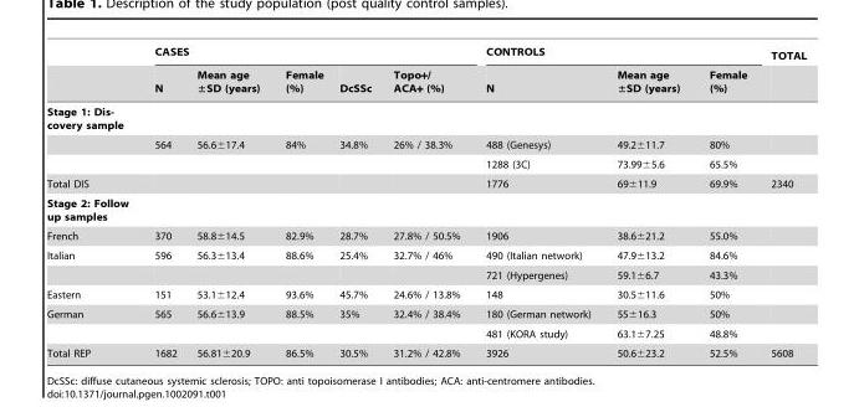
<table><thead><tr><td rowspan="2"></td><td colspan="5">CASES</td><td colspan="3">CONTROLS</td><td rowspan="2">TOTAL</td></tr><tr><td>N</td><td>Mean age ±SD (years)</td><td>Female (%)</td><td>DcSSc</td><td>Topo+/ ACA+ (%)</td><td>N</td><td>Mean age ±SD (years)</td><td>Female (%)</td></tr></thead><tbody><tr><td colspan="10">Stage 1: Dis- covery sample</td></tr><tr><td></td><td>564</td><td>56.6±17.4</td><td>84%</td><td>34.8%</td><td>26% / 38.3%</td><td>488 (Genesys)</td><td>49.2±11.7</td><td>80%</td><td></td></tr><tr><td></td><td></td><td></td><td></td><td></td><td></td><td>1288 (3C)</td><td>73.99±5.6</td><td>65.5%</td><td></td></tr><tr><td>Total DIS</td><td></td><td></td><td></td><td></td><td></td><td>1776</td><td>69±11.9</td><td>69.9%</td><td>2340</td></tr><tr><td colspan="10">Stage 2: Follow up samples</td></tr><tr><td>French</td><td>370</td><td>58.8±14.5</td><td>82.9%</td><td>28.7%</td><td>27.8% / 50.5%</td><td>1906</td><td>38.6±21.2</td><td>55.0%</td><td></td></tr><tr><td rowspan="2">Italian</td><td>596</td><td>56.3±13.4</td><td>88.6%</td><td>25.4%</td><td>32.7% / 46%</td><td>490 (Italian network)</td><td>47.9±13.2</td><td>84.6%</td><td></td></tr><tr><td></td><td></td><td></td><td></td><td></td><td>721 (Hypergenes)</td><td>59.1±6.7</td><td>43.3%</td><td></td></tr><tr><td>Eastern</td><td>151</td><td>53.1±12.4</td><td>93.6%</td><td>45.7%</td><td>24.6% / 13.8%</td><td>148</td><td>30.5±11.6</td><td>50%</td><td></td></tr><tr><td rowspan="2">German</td><td>565</td><td>56.6±13.9</td><td>88.5%</td><td>35%</td><td>32.4% / 38.4%</td><td>180 (German network)</td><td>55±16.3</td><td>50%</td><td></td></tr><tr><td></td><td></td><td></td><td></td><td></td><td>481 (KORA study)</td><td>63.1±7.25</td><td>48.8%</td><td></td></tr><tr><td>Total REP</td><td>1682</td><td>56.81±20.9</td><td>86.5%</td><td>30.5%</td><td>31.2% / 42.8%</td><td>3926</td><td>50.6±23.2</td><td>52.5%</td><td>5608</td></tr></tbody></table>